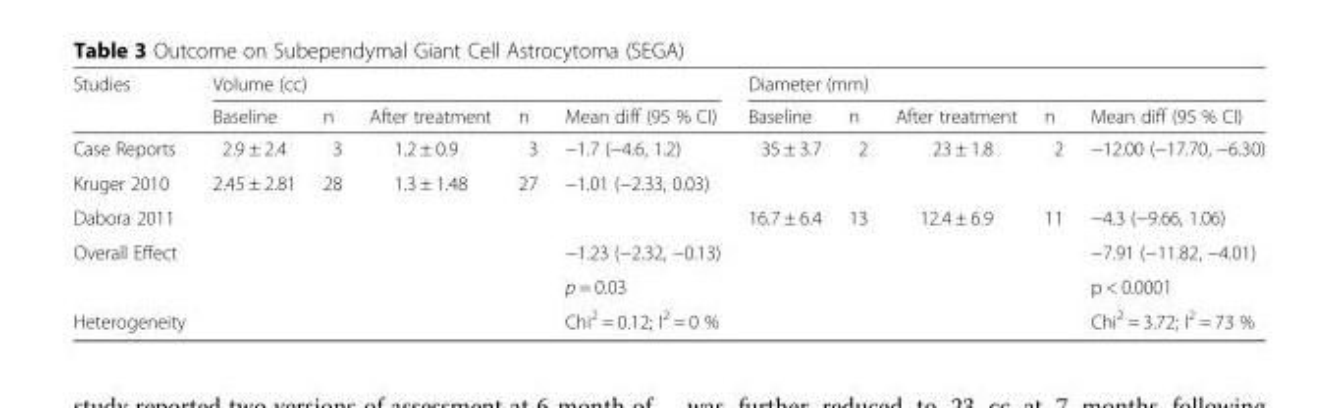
<table><thead><tr><td rowspan="2">Studies</td><td colspan="5">Volume (cc)</td><td colspan="5">Diameter (mm)</td></tr><tr><td>Baseline</td><td>n</td><td>After treatment</td><td>n</td><td>Mean diff (95 % CI)</td><td>Baseline</td><td>n</td><td>After treatment</td><td>n</td><td>Mean diff (95 % CI)</td></tr></thead><tbody><tr><td>Case Reports</td><td>2.9 ± 2.4</td><td>3</td><td>1.2 ± 0.9</td><td>3</td><td>−1.7 (−4.6, 1.2)</td><td>35 ± 3.7</td><td>2</td><td>23 ± 1.8</td><td>2</td><td>−12.00 (−17.70, −6.30)</td></tr><tr><td>Kruger 2010</td><td>2.45 ± 2.81</td><td>28</td><td>1.3 ± 1.48</td><td>27</td><td>−1.01 (−2.33, 0.03)</td><td></td><td></td><td></td><td></td><td></td></tr><tr><td>Dabora 2011</td><td></td><td></td><td></td><td></td><td></td><td>16.7 ± 6.4</td><td>13</td><td>12.4 ± 6.9</td><td>11</td><td>−4.3 (−9.66, 1.06)</td></tr><tr><td rowspan="2">Overall Effect</td><td></td><td></td><td></td><td></td><td>−1.23 (−2.32, −0.13)</td><td></td><td></td><td></td><td></td><td>−7.91 (−11.82, −4.01)</td></tr><tr><td></td><td></td><td></td><td></td><td>p = 0.03</td><td></td><td></td><td></td><td></td><td>p &lt; 0.0001</td></tr><tr><td>Heterogeneity</td><td></td><td></td><td></td><td></td><td>Chi<sup>2</sup> = 0.12; I<sup>2</sup> = 0 %</td><td></td><td></td><td></td><td></td><td>Chi<sup>2</sup> = 3.72; I<sup>2</sup> = 73 %</td></tr></tbody></table>